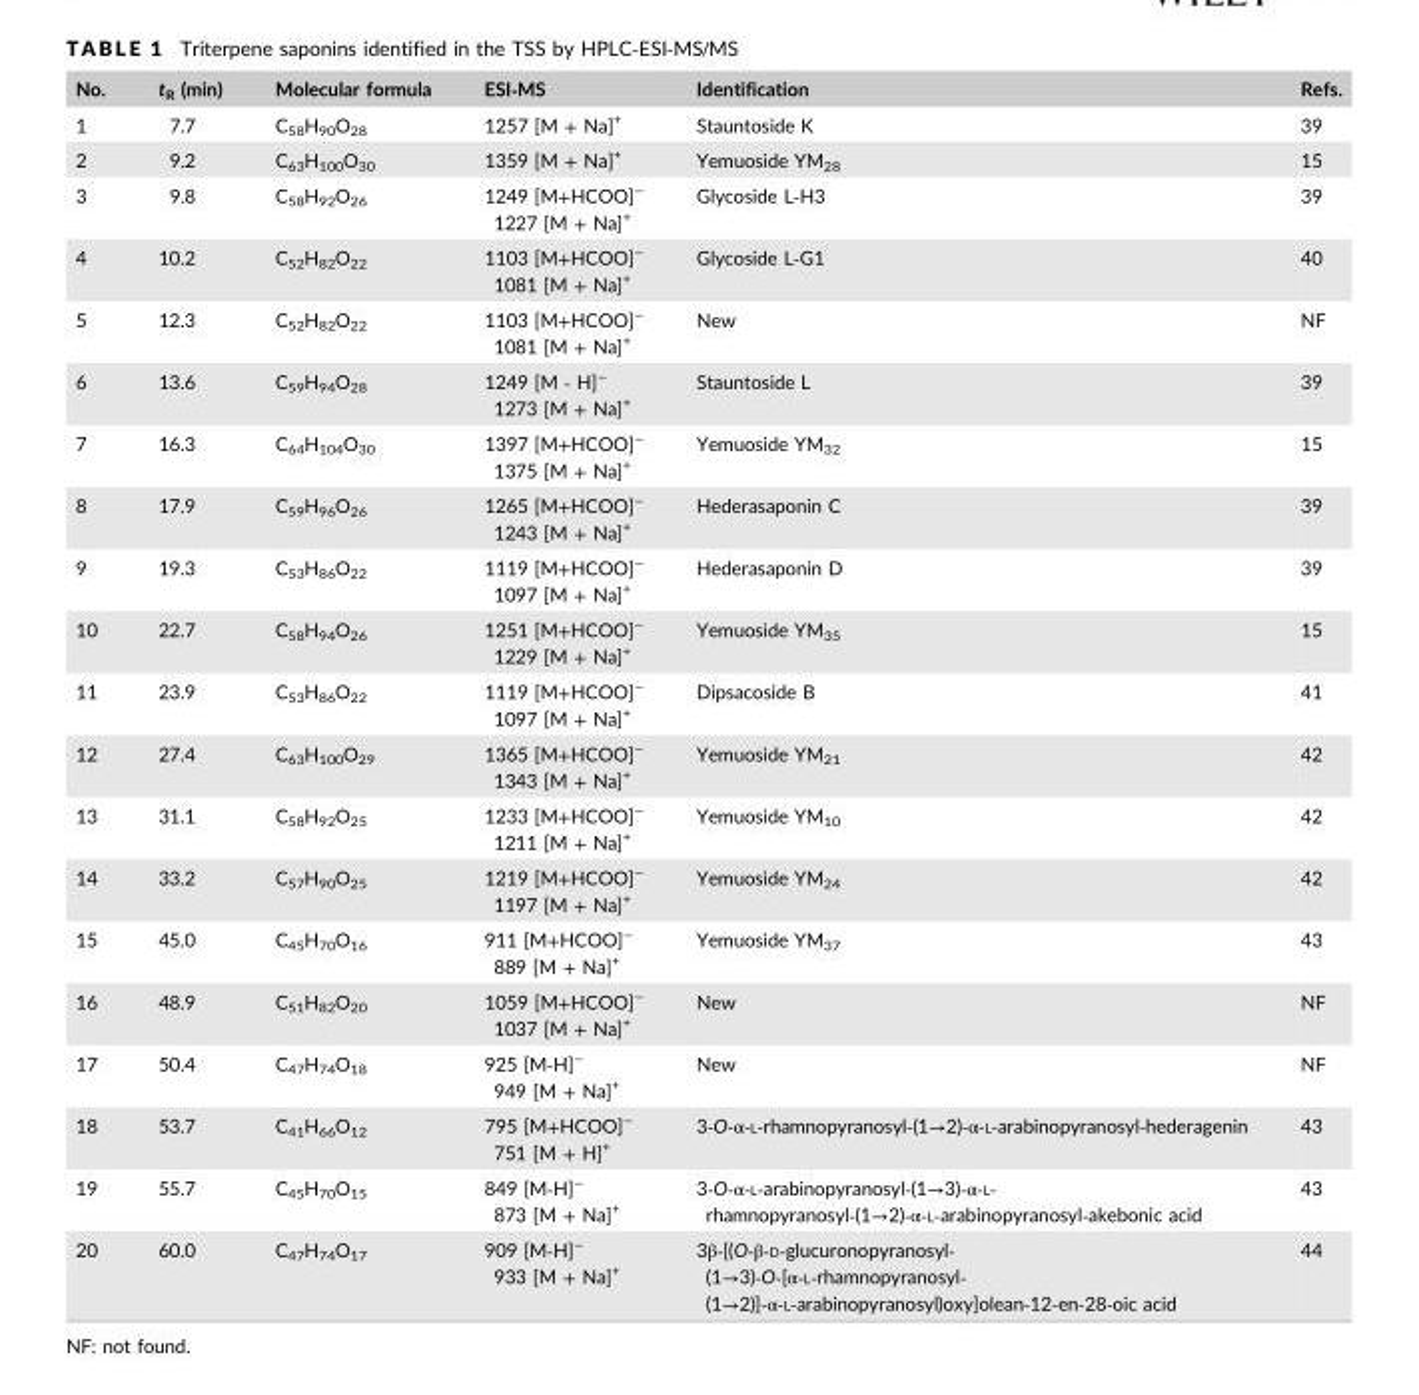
<table><thead><tr><td>No.</td><td>t<sub>R</sub> (min)</td><td>Molecular formula</td><td>ESI‐MS</td><td>Identification</td><td>Refs.</td></tr></thead><tbody><tr><td>1</td><td>7.7</td><td>C<sub>58</sub>H<sub>90</sub>O<sub>28</sub></td><td>1257 [M + Na]<sup>+</sup></td><td>Stauntoside K</td><td>39</td></tr><tr><td>2</td><td>9.2</td><td>C<sub>63</sub>H<sub>100</sub>O<sub>30</sub></td><td>1359 [M + Na]<sup>+</sup></td><td>Yemuoside YM<sub>28</sub></td><td>15</td></tr><tr><td>3</td><td>9.8</td><td>C<sub>58</sub>H<sub>92</sub>O<sub>26</sub></td><td>1249 [M+HCOO]<sup>−</sup> 1227 [M + Na]<sup>+</sup></td><td>Glycoside L‐H3</td><td>39</td></tr><tr><td>4</td><td>10.2</td><td>C<sub>52</sub>H<sub>82</sub>O<sub>22</sub></td><td>1103 [M+HCOO]<sup>−</sup> 1081 [M + Na]<sup>+</sup></td><td>Glycoside L‐G1</td><td>40</td></tr><tr><td>5</td><td>12.3</td><td>C<sub>52</sub>H<sub>82</sub>O<sub>22</sub></td><td>1103 [M+HCOO]<sup>−</sup> 1081 [M + Na]<sup>+</sup></td><td>New</td><td>NF</td></tr><tr><td>6</td><td>13.6</td><td>C<sub>59</sub>H<sub>94</sub>O<sub>28</sub></td><td>1249 [M ‐ H]<sup>−</sup> 1273 [M + Na]<sup>+</sup></td><td>Stauntoside L</td><td>39</td></tr><tr><td>7</td><td>16.3</td><td>C<sub>64</sub>H<sub>104</sub>O<sub>30</sub></td><td>1397 [M+HCOO]<sup>−</sup> 1375 [M + Na]<sup>+</sup></td><td>Yemuoside YM<sub>32</sub></td><td>15</td></tr><tr><td>8</td><td>17.9</td><td>C<sub>59</sub>H<sub>96</sub>O<sub>26</sub></td><td>1265 [M+HCOO]<sup>−</sup> 1243 [M + Na]<sup>+</sup></td><td>Hederasaponin C</td><td>39</td></tr><tr><td>9</td><td>19.3</td><td>C<sub>53</sub>H<sub>86</sub>O<sub>22</sub></td><td>1119 [M+HCOO]<sup>−</sup> 1097 [M + Na]<sup>+</sup></td><td>Hederasaponin D</td><td>39</td></tr><tr><td>10</td><td>22.7</td><td>C<sub>58</sub>H<sub>94</sub>O<sub>26</sub></td><td>1251 [M+HCOO]<sup>−</sup> 1229 [M + Na]<sup>+</sup></td><td>Yemuoside YM<sub>35</sub></td><td>15</td></tr><tr><td>11</td><td>23.9</td><td>C<sub>53</sub>H<sub>86</sub>O<sub>22</sub></td><td>1119 [M+HCOO]<sup>−</sup> 1097 [M + Na]<sup>+</sup></td><td>Dipsacoside B</td><td>41</td></tr><tr><td>12</td><td>27.4</td><td>C<sub>63</sub>H<sub>100</sub>O<sub>29</sub></td><td>1365 [M+HCOO]<sup>−</sup> 1343 [M + Na]<sup>+</sup></td><td>Yemuoside YM<sub>21</sub></td><td>42</td></tr><tr><td>13</td><td>31.1</td><td>C<sub>58</sub>H<sub>92</sub>O<sub>25</sub></td><td>1233 [M+HCOO]<sup>−</sup> 1211 [M + Na]<sup>+</sup></td><td>Yemuoside YM<sub>10</sub></td><td>42</td></tr><tr><td>14</td><td>33.2</td><td>C<sub>57</sub>H<sub>90</sub>O<sub>25</sub></td><td>1219 [M+HCOO]<sup>−</sup> 1197 [M + Na]<sup>+</sup></td><td>Yemuoside YM<sub>24</sub></td><td>42</td></tr><tr><td>15</td><td>45.0</td><td>C<sub>45</sub>H<sub>70</sub>O<sub>16</sub></td><td>911 [M+HCOO]<sup>−</sup> 889 [M + Na]<sup>+</sup></td><td>Yemuoside YM<sub>37</sub></td><td>43</td></tr><tr><td>16</td><td>48.9</td><td>C<sub>51</sub>H<sub>82</sub>O<sub>20</sub></td><td>1059 [M+HCOO]<sup>−</sup> 1037 [M + Na]<sup>+</sup></td><td>New</td><td>NF</td></tr><tr><td>17</td><td>50.4</td><td>C<sub>47</sub>H<sub>74</sub>O<sub>18</sub></td><td>925 [M‐H]<sup>−</sup> 949 [M + Na]<sup>+</sup></td><td>New</td><td>NF</td></tr><tr><td>18</td><td>53.7</td><td>C<sub>41</sub>H<sub>66</sub>O<sub>12</sub></td><td>795 [M+HCOO]<sup>−</sup> 751 [M + H]<sup>+</sup></td><td>3‐O‐α‐L‐rhamnopyranosyl‐(1→2)‐α‐L‐arabinopyranosyl‐hederagenin</td><td>43</td></tr><tr><td>19</td><td>55.7</td><td>C<sub>45</sub>H<sub>70</sub>O<sub>15</sub></td><td>849 [M‐H]<sup>−</sup> 873 [M + Na]<sup>+</sup></td><td>3‐O‐α‐L‐arabinopyranosyl‐(1→3)‐α‐L‐ rhamnopyranosyl‐(1→2)‐α‐L‐arabinopyranosyl‐akebonic acid</td><td>43</td></tr><tr><td>20</td><td>60.0</td><td>C<sub>47</sub>H<sub>74</sub>O<sub>17</sub></td><td>909 [M‐H]<sup>−</sup> 933 [M + Na]<sup>+</sup></td><td>3β‐[(O‐β‐D‐glucuronopyranosyl‐ (1→3)‐O‐[α‐L‐rhamnopyranosyl‐ (1→2)]‐α‐L‐arabinopyranosyl)oxy]olean‐12‐en‐28‐oic acid</td><td>44</td></tr></tbody></table>